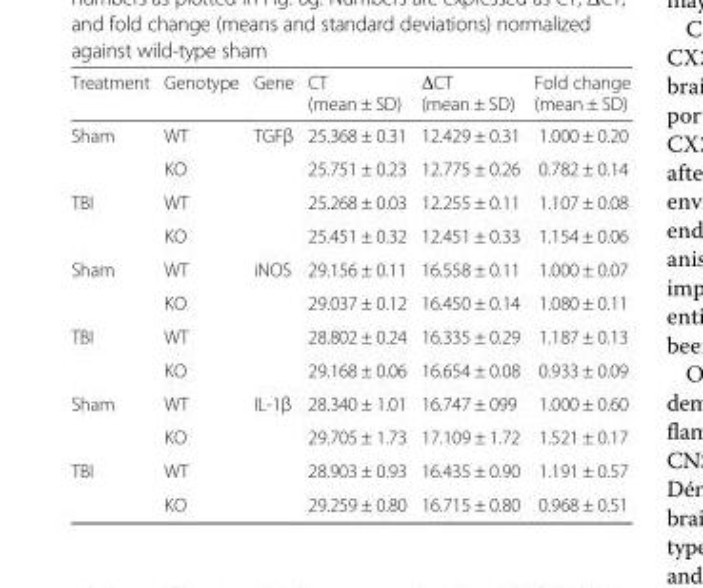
<table><thead><tr><td>Treatment</td><td>Genotype</td><td>Gene</td><td>CT (mean ± SD)</td><td>ΔCT (mean ± SD)</td><td>Fold change (mean ± SD)</td></tr></thead><tbody><tr><td rowspan="2">Sham</td><td>WT</td><td rowspan="4">TGFβ</td><td>25.368 ± 0.31</td><td>12.429 ± 0.31</td><td>1.000 ± 0.20</td></tr><tr><td>KO</td><td>25.751 ± 0.23</td><td>12.775 ± 0.26</td><td>0.782 ± 0.14</td></tr><tr><td rowspan="2">TBI</td><td>WT</td><td>25.268 ± 0.03</td><td>12.255 ± 0.11</td><td>1.107 ± 0.08</td></tr><tr><td>KO</td><td>25.451 ± 0.32</td><td>12.451 ± 0.33</td><td>1.154 ± 0.06</td></tr><tr><td rowspan="2">Sham</td><td>WT</td><td rowspan="4">iNOS</td><td>29.156 ± 0.11</td><td>16.558 ± 0.11</td><td>1.000 ± 0.07</td></tr><tr><td>KO</td><td>29.037 ± 0.12</td><td>16.450 ± 0.14</td><td>1.080 ± 0.11</td></tr><tr><td rowspan="2">TBI</td><td>WT</td><td>28.802 ± 0.24</td><td>16.335 ± 0.29</td><td>1.187 ± 0.13</td></tr><tr><td>KO</td><td>29.168 ± 0.06</td><td>16.654 ± 0.08</td><td>0.933 ± 0.09</td></tr><tr><td rowspan="2">Sham</td><td>WT</td><td rowspan="4">IL-1β</td><td>28.340 ± 1.01</td><td>16.747 ± 099</td><td>1.000 ± 0.60</td></tr><tr><td>KO</td><td>29.705 ± 1.73</td><td>17.109 ± 1.72</td><td>1.521 ± 0.17</td></tr><tr><td rowspan="2">TBI</td><td>WT</td><td>28.903 ± 0.93</td><td>16.435 ± 0.90</td><td>1.191 ± 0.57</td></tr><tr><td>KO</td><td>29.259 ± 0.80</td><td>16.715 ± 0.80</td><td>0.968 ± 0.51</td></tr></tbody></table>